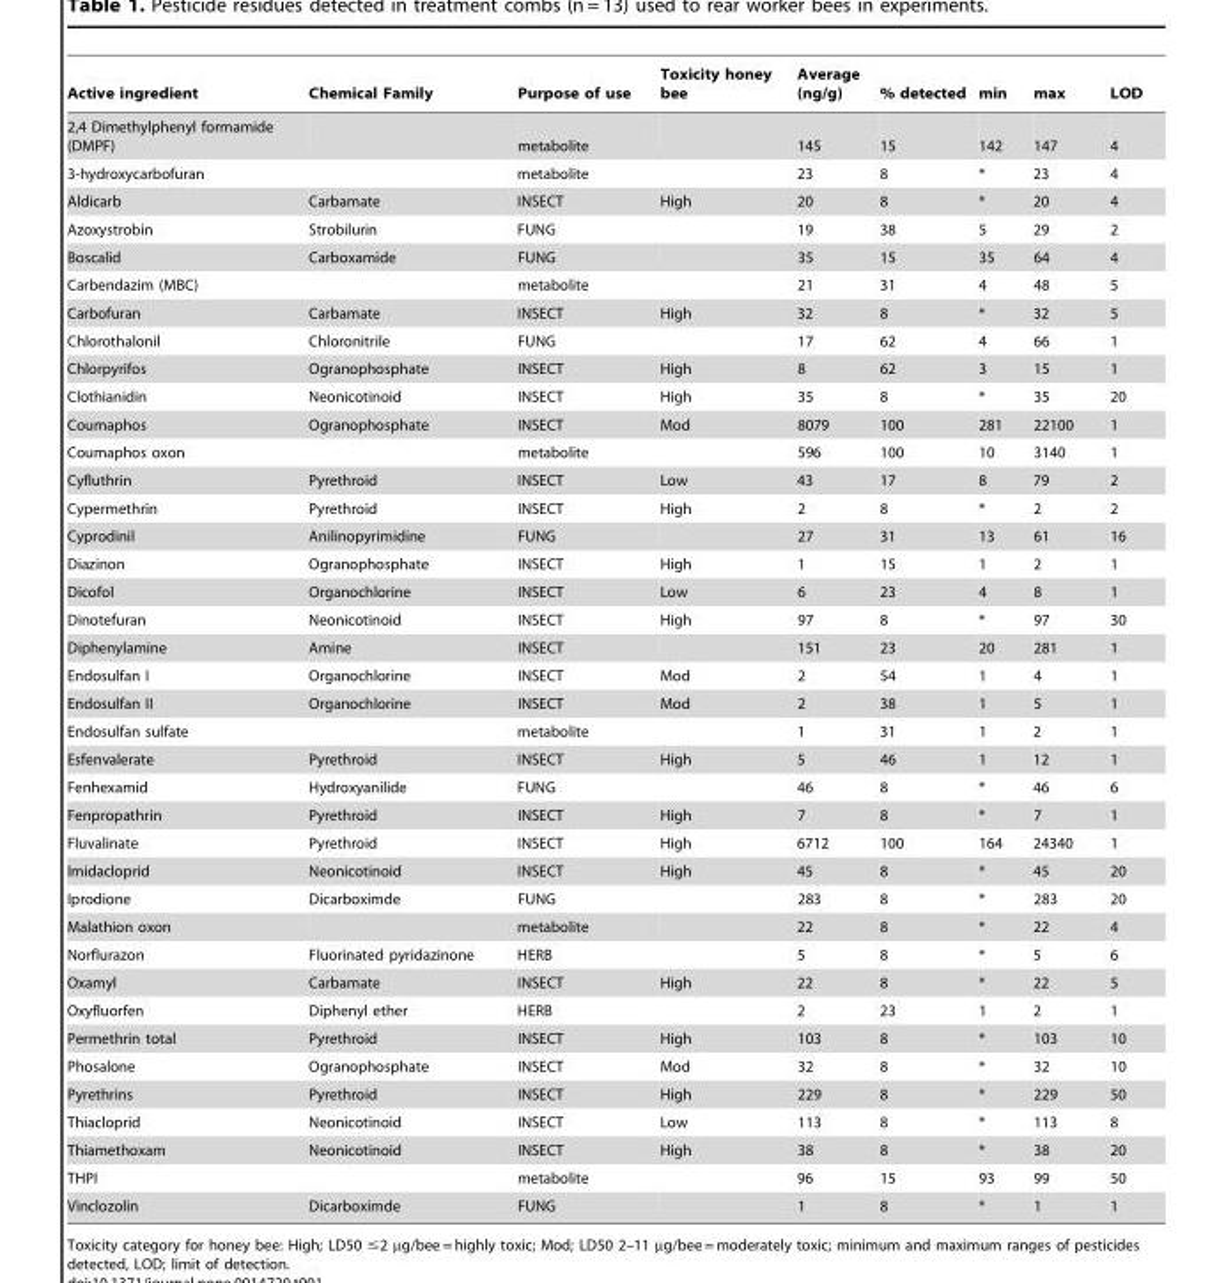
<table><thead><tr><td>Active ingredient</td><td>Chemical Family</td><td>Purpose of use</td><td>Toxicity honey bee</td><td>Average (ng/g)</td><td>% detected</td><td>min</td><td>max</td><td>LOD</td></tr></thead><tbody><tr><td>2,4 Dimethylphenyl formamide (DMPF)</td><td></td><td>metabolite</td><td></td><td>145</td><td>15</td><td>142</td><td>147</td><td>4</td></tr><tr><td>3-hydroxycarbofuran</td><td></td><td>metabolite</td><td></td><td>23</td><td>8</td><td>*</td><td>23</td><td>4</td></tr><tr><td>Aldicarb</td><td>Carbamate</td><td>INSECT</td><td>High</td><td>20</td><td>8</td><td>*</td><td>20</td><td>4</td></tr><tr><td>Azoxystrobin</td><td>Strobilurin</td><td>FUNG</td><td></td><td>19</td><td>38</td><td>5</td><td>29</td><td>2</td></tr><tr><td>Boscalid</td><td>Carboxamide</td><td>FUNG</td><td></td><td>35</td><td>15</td><td>35</td><td>64</td><td>4</td></tr><tr><td>Carbendazim (MBC)</td><td></td><td>metabolite</td><td></td><td>21</td><td>31</td><td>4</td><td>48</td><td>5</td></tr><tr><td>Carbofuran</td><td>Carbamate</td><td>INSECT</td><td>High</td><td>32</td><td>8</td><td>*</td><td>32</td><td>5</td></tr><tr><td>Chlorothalonil</td><td>Chloronitrile</td><td>FUNG</td><td></td><td>17</td><td>62</td><td>4</td><td>66</td><td>1</td></tr><tr><td>Chlorpyrifos</td><td>Ogranophosphate</td><td>INSECT</td><td>High</td><td>8</td><td>62</td><td>3</td><td>15</td><td>1</td></tr><tr><td>Clothianidin</td><td>Neonicotinoid</td><td>INSECT</td><td>High</td><td>35</td><td>8</td><td>*</td><td>35</td><td>20</td></tr><tr><td>Coumaphos</td><td>Ogranophosphate</td><td>INSECT</td><td>Mod</td><td>8079</td><td>100</td><td>281</td><td>22100</td><td>1</td></tr><tr><td>Coumaphos oxon</td><td></td><td>metabolite</td><td></td><td>596</td><td>100</td><td>10</td><td>3140</td><td>1</td></tr><tr><td>Cyfluthrin</td><td>Pyrethroid</td><td>INSECT</td><td>Low</td><td>43</td><td>17</td><td>8</td><td>79</td><td>2</td></tr><tr><td>Cypermethrin</td><td>Pyrethroid</td><td>INSECT</td><td>High</td><td>2</td><td>8</td><td>*</td><td>2</td><td>2</td></tr><tr><td>Cyprodinil</td><td>Anilinopyrimidine</td><td>FUNG</td><td></td><td>27</td><td>31</td><td>13</td><td>61</td><td>16</td></tr><tr><td>Diazinon</td><td>Ogranophosphate</td><td>INSECT</td><td>High</td><td>1</td><td>15</td><td>1</td><td>2</td><td>1</td></tr><tr><td>Dicofol</td><td>Organochlorine</td><td>INSECT</td><td>Low</td><td>6</td><td>23</td><td>4</td><td>8</td><td>1</td></tr><tr><td>Dinotefuran</td><td>Neonicotinoid</td><td>INSECT</td><td>High</td><td>97</td><td>8</td><td>*</td><td>97</td><td>30</td></tr><tr><td>Diphenylamine</td><td>Amine</td><td>INSECT</td><td></td><td>151</td><td>23</td><td>20</td><td>281</td><td>1</td></tr><tr><td>Endosulfan I</td><td>Organochlorine</td><td>INSECT</td><td>Mod</td><td>2</td><td>54</td><td>1</td><td>4</td><td>1</td></tr><tr><td>Endosulfan II</td><td>Organochlorine</td><td>INSECT</td><td>Mod</td><td>2</td><td>38</td><td>1</td><td>5</td><td>1</td></tr><tr><td>Endosulfan sulfate</td><td></td><td>metabolite</td><td></td><td>1</td><td>31</td><td>1</td><td>2</td><td>1</td></tr><tr><td>Esfenvalerate</td><td>Pyrethroid</td><td>INSECT</td><td>High</td><td>5</td><td>46</td><td>1</td><td>12</td><td>1</td></tr><tr><td>Fenhexamid</td><td>Hydroxyanilide</td><td>FUNG</td><td></td><td>46</td><td>8</td><td>*</td><td>46</td><td>6</td></tr><tr><td>Fenpropathrin</td><td>Pyrethroid</td><td>INSECT</td><td>High</td><td>7</td><td>8</td><td>*</td><td>7</td><td>1</td></tr><tr><td>Fluvalinate</td><td>Pyrethroid</td><td>INSECT</td><td>High</td><td>6712</td><td>100</td><td>164</td><td>24340</td><td>1</td></tr><tr><td>Imidacloprid</td><td>Neonicotinoid</td><td>INSECT</td><td>High</td><td>45</td><td>8</td><td>*</td><td>45</td><td>20</td></tr><tr><td>Iprodione</td><td>Dicarboximde</td><td>FUNG</td><td></td><td>283</td><td>8</td><td>*</td><td>283</td><td>20</td></tr><tr><td>Malathion oxon</td><td></td><td>metabolite</td><td></td><td>22</td><td>8</td><td>*</td><td>22</td><td>4</td></tr><tr><td>Norflurazon</td><td>Fluorinated pyridazinone</td><td>HERB</td><td></td><td>5</td><td>8</td><td>*</td><td>5</td><td>6</td></tr><tr><td>Oxamyl</td><td>Carbamate</td><td>INSECT</td><td>High</td><td>22</td><td>8</td><td>*</td><td>22</td><td>5</td></tr><tr><td>Oxyfluorfen</td><td>Diphenyl ether</td><td>HERB</td><td></td><td>2</td><td>23</td><td>1</td><td>2</td><td>1</td></tr><tr><td>Permethrin total</td><td>Pyrethroid</td><td>INSECT</td><td>High</td><td>103</td><td>8</td><td>*</td><td>103</td><td>10</td></tr><tr><td>Phosalone</td><td>Ogranophosphate</td><td>INSECT</td><td>Mod</td><td>32</td><td>8</td><td>*</td><td>32</td><td>10</td></tr><tr><td>Pyrethrins</td><td>Pyrethroid</td><td>INSECT</td><td>High</td><td>229</td><td>8</td><td>*</td><td>229</td><td>50</td></tr><tr><td>Thiacloprid</td><td>Neonicotinoid</td><td>INSECT</td><td>Low</td><td>113</td><td>8</td><td>*</td><td>113</td><td>8</td></tr><tr><td>Thiamethoxam</td><td>Neonicotinoid</td><td>INSECT</td><td>High</td><td>38</td><td>8</td><td>*</td><td>38</td><td>20</td></tr><tr><td>THPI</td><td></td><td>metabolite</td><td></td><td>96</td><td>15</td><td>93</td><td>99</td><td>50</td></tr><tr><td>Vinclozolin</td><td>Dicarboximde</td><td>FUNG</td><td></td><td>1</td><td>8</td><td>*</td><td>1</td><td>1</td></tr></tbody></table>